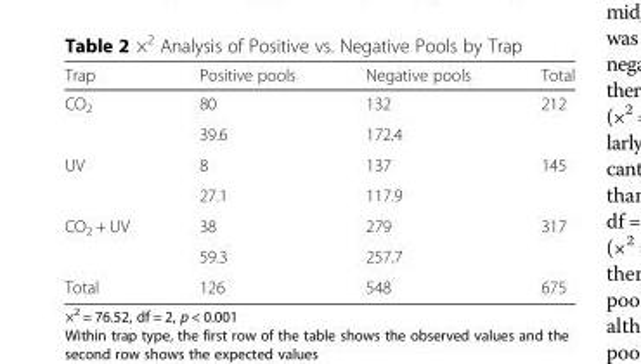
<table><thead><tr><td>Trap</td><td>Positive pools</td><td>Negative pools</td><td>Total</td></tr></thead><tbody><tr><td rowspan="2">CO<sub>2</sub></td><td>80</td><td>132</td><td>212</td></tr><tr><td>39.6</td><td>172.4</td><td></td></tr><tr><td rowspan="2">UV</td><td>8</td><td>137</td><td>145</td></tr><tr><td>27.1</td><td>117.9</td><td></td></tr><tr><td rowspan="2">CO<sub>2</sub> + UV</td><td>38</td><td>279</td><td>317</td></tr><tr><td>59.3</td><td>257.7</td><td></td></tr><tr><td>Total</td><td>126</td><td>548</td><td>675</td></tr></tbody></table>